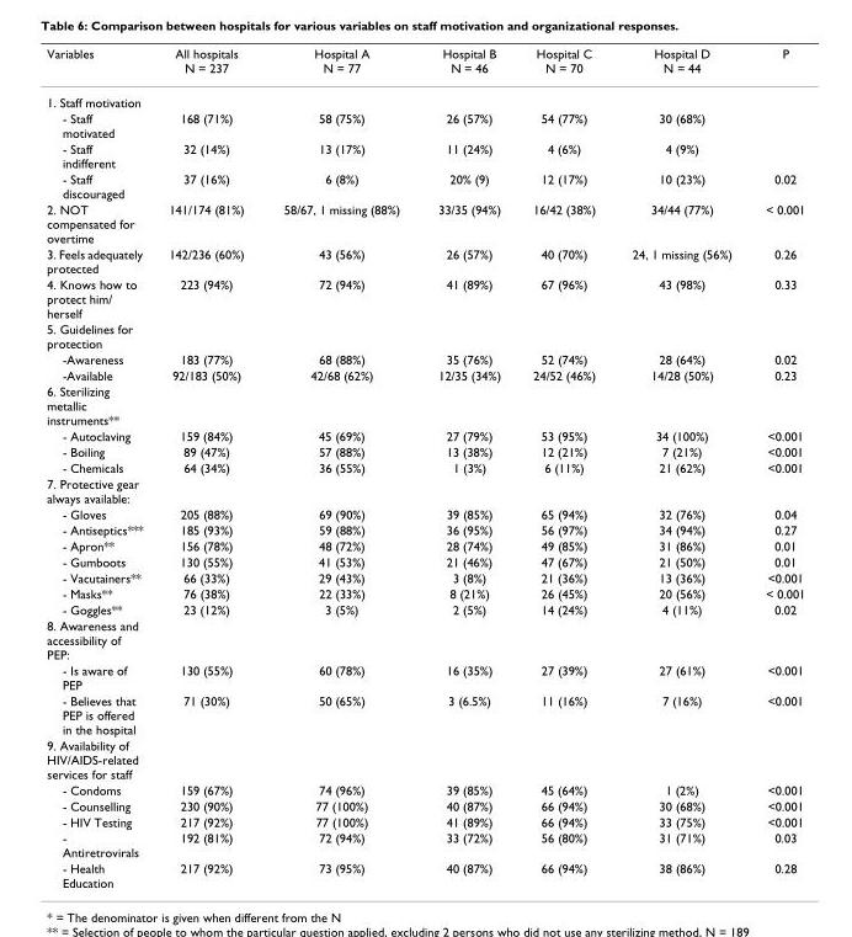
<table><thead><tr><td>Variables</td><td>All hospitals N = 237</td><td>Hospital A N = 77</td><td>Hospital B N = 46</td><td>Hospital C N = 70</td><td>Hospital D N = 44</td><td>P</td></tr></thead><tbody><tr><td colspan="7">1. Staff motivation</td></tr><tr><td>- Staff motivated</td><td>168 (71%)</td><td>58 (75%)</td><td>26 (57%)</td><td>54 (77%)</td><td>30 (68%)</td><td></td></tr><tr><td>- Staff indifferent</td><td>32 (14%)</td><td>13 (17%)</td><td>11 (24%)</td><td>4 (6%)</td><td>4 (9%)</td><td></td></tr><tr><td>- Staff discouraged</td><td>37 (16%)</td><td>6 (8%)</td><td>20% (9)</td><td>12 (17%)</td><td>10 (23%)</td><td>0.02</td></tr><tr><td>2. NOT compensated for overtime</td><td>141/174 (81%)</td><td>58/67, 1 missing (88%)</td><td>33/35 (94%)</td><td>16/42 (38%)</td><td>34/44 (77%)</td><td>&lt; 0.001</td></tr><tr><td>3. Feels adequately protected</td><td>142/236 (60%)</td><td>43 (56%)</td><td>26 (57%)</td><td>40 (70%)</td><td>24, 1 missing (56%)</td><td>0.26</td></tr><tr><td>4. Knows how to protect him/ herself</td><td>223 (94%)</td><td>72 (94%)</td><td>41 (89%)</td><td>67 (96%)</td><td>43 (98%)</td><td>0.33</td></tr><tr><td colspan="7">5. Guidelines for protection</td></tr><tr><td>-Awareness</td><td>183 (77%)</td><td>68 (88%)</td><td>35 (76%)</td><td>52 (74%)</td><td>28 (64%)</td><td>0.02</td></tr><tr><td>-Available</td><td>92/183 (50%)</td><td>42/68 (62%)</td><td>12/35 (34%)</td><td>24/52 (46%)</td><td>14/28 (50%)</td><td>0.23</td></tr><tr><td colspan="7">6. Sterilizing metallic instruments**</td></tr><tr><td>- Autoclaving</td><td>159 (84%)</td><td>45 (69%)</td><td>27 (79%)</td><td>53 (95%)</td><td>34 (100%)</td><td>&lt;0.001</td></tr><tr><td>- Boiling</td><td>89 (47%)</td><td>57 (88%)</td><td>13 (38%)</td><td>12 (21%)</td><td>7 (21%)</td><td>&lt;0.001</td></tr><tr><td>- Chemicals</td><td>64 (34%)</td><td>36 (55%)</td><td>1 (3%)</td><td>6 (11%)</td><td>21 (62%)</td><td>&lt;0.001</td></tr><tr><td colspan="7">7. Protective gear always available:</td></tr><tr><td>- Gloves</td><td>205 (88%)</td><td>69 (90%)</td><td>39 (85%)</td><td>65 (94%)</td><td>32 (76%)</td><td>0.04</td></tr><tr><td>- Antiseptics***</td><td>185 (93%)</td><td>59 (88%)</td><td>36 (95%)</td><td>56 (97%)</td><td>34 (94%)</td><td>0.27</td></tr><tr><td>- Apron**</td><td>156 (78%)</td><td>48 (72%)</td><td>28 (74%)</td><td>49 (85%)</td><td>31 (86%)</td><td>0.01</td></tr><tr><td>- Gumboots</td><td>130 (55%)</td><td>41 (53%)</td><td>21 (46%)</td><td>47 (67%)</td><td>21 (50%)</td><td>0.01</td></tr><tr><td>- Vacutainers**</td><td>66 (33%)</td><td>29 (43%)</td><td>3 (8%)</td><td>21 (36%)</td><td>13 (36%)</td><td>&lt;0.001</td></tr><tr><td>- Masks**</td><td>76 (38%)</td><td>22 (33%)</td><td>8 (21%)</td><td>26 (45%)</td><td>20 (56%)</td><td>&lt; 0.001</td></tr><tr><td>- Goggles**</td><td>23 (12%)</td><td>3 (5%)</td><td>2 (5%)</td><td>14 (24%)</td><td>4 (11%)</td><td>0.02</td></tr><tr><td colspan="7">8. Awareness and accessibility of PEP:</td></tr><tr><td>- Is aware of PEP</td><td>130 (55%)</td><td>60 (78%)</td><td>16 (35%)</td><td>27 (39%)</td><td>27 (61%)</td><td>&lt;0.001</td></tr><tr><td>- Believes that PEP is offered in the hospital</td><td>71 (30%)</td><td>50 (65%)</td><td>3 (6.5%)</td><td>11 (16%)</td><td>7 (16%)</td><td>&lt;0.001</td></tr><tr><td colspan="7">9. Availability of HIV/AIDS-related services for staff</td></tr><tr><td>- Condoms</td><td>159 (67%)</td><td>74 (96%)</td><td>39 (85%)</td><td>45 (64%)</td><td>1 (2%)</td><td>&lt;0.001</td></tr><tr><td>- Counselling</td><td>230 (90%)</td><td>77 (100%)</td><td>40 (87%)</td><td>66 (94%)</td><td>30 (68%)</td><td>&lt;0.001</td></tr><tr><td>- HIV Testing</td><td>217 (92%)</td><td>77 (100%)</td><td>41 (89%)</td><td>66 (94%)</td><td>33 (75%)</td><td>&lt;0.001</td></tr><tr><td>- Antiretrovirals</td><td>192 (81%)</td><td>72 (94%)</td><td>33 (72%)</td><td>56 (80%)</td><td>31 (71%)</td><td>0.03</td></tr><tr><td>- Health Education</td><td>217 (92%)</td><td>73 (95%)</td><td>40 (87%)</td><td>66 (94%)</td><td>38 (86%)</td><td>0.28</td></tr></tbody></table>